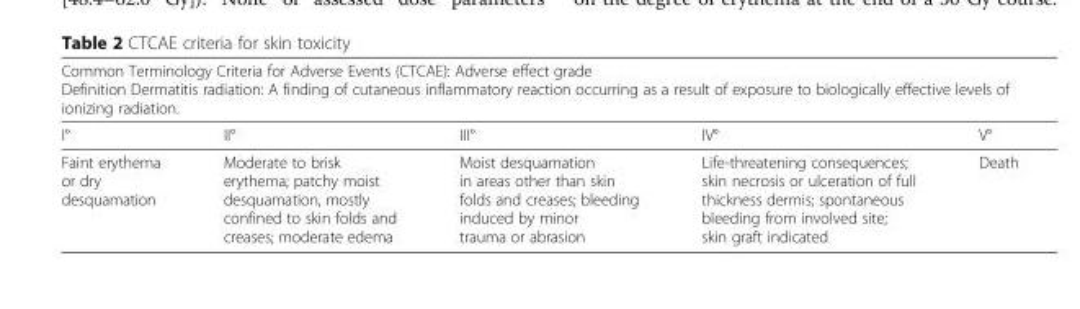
<table><thead><tr><td colspan="5">Common Terminology Criteria for Adverse Events (CTCAE): Adverse effect grade Definition Dermatitis radiation: A finding of cutaneous inflammatory reaction occurring as a result of exposure to biologically effective levels of ionizing radiation.</td></tr><tr><td>I°</td><td>II°</td><td>III°</td><td>IV°</td><td>V°</td></tr></thead><tbody><tr><td>Faint erythema or dry desquamation</td><td>Moderate to brisk erythema; patchy moist desquamation, mostly confined to skin folds and creases; moderate edema</td><td>Moist desquamation in areas other than skin folds and creases; bleeding induced by minor trauma or abrasion</td><td>Life-threatening consequences; skin necrosis or ulceration of full thickness dermis; spontaneous bleeding from involved site; skin graft indicated</td><td>Death</td></tr></tbody></table>